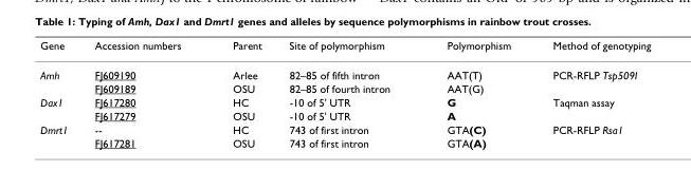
<table><thead><tr><td>Gene</td><td>Accession numbers</td><td>Parent</td><td>Site of polymorphism</td><td>Polymorphism</td><td>Method of genotyping</td></tr></thead><tbody><tr><td rowspan="2">Amh</td><td>FJ609190</td><td>Arlee</td><td>82–85 of fifth intron</td><td>AAT(T)</td><td>PCR-RFLP Tsp509I</td></tr><tr><td>FJ609189</td><td>OSU</td><td>82–85 of fourth intron</td><td>AAT(G)</td><td></td></tr><tr><td rowspan="2">Dax1</td><td>FJ617280</td><td>HC</td><td>-10 of 5&#x27; UTR</td><td>G</td><td>Taqman assay</td></tr><tr><td>FJ617279</td><td>OSU</td><td>-10 of 5&#x27; UTR</td><td>A</td><td></td></tr><tr><td rowspan="2">Dmrt1</td><td>--</td><td>HC</td><td>743 of first intron</td><td>GTA(C)</td><td>PCR-RFLP Rsa1</td></tr><tr><td>FJ617281</td><td>OSU</td><td>743 of first intron</td><td>GTA(A)</td><td></td></tr></tbody></table>